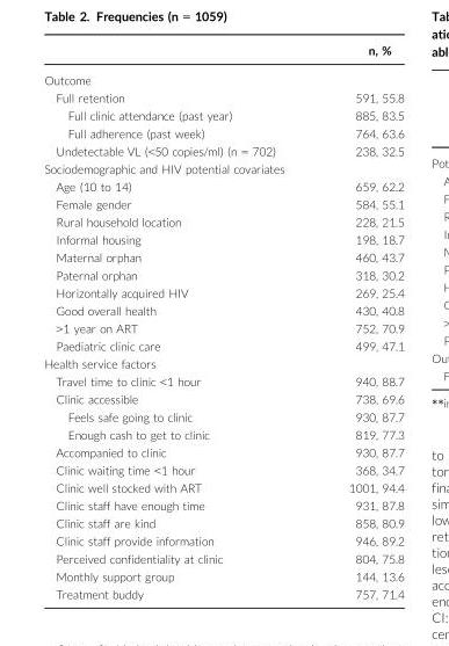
<table><thead><tr><td></td><td>n, %</td></tr></thead><tbody><tr><td colspan="2">Outcome</td></tr><tr><td>Full retention</td><td>591, 55.8</td></tr><tr><td>Full clinic attendance (past year)</td><td>885, 83.5</td></tr><tr><td>Full adherence (past week)</td><td>764, 63.6</td></tr><tr><td>Undetectable VL (&lt;50 copies/ml) (n = 702)</td><td>238, 32.5</td></tr><tr><td colspan="2">Sociodemographic and HIV potential covariates</td></tr><tr><td>Age (10 to 14)</td><td>659, 62.2</td></tr><tr><td>Female gender</td><td>584, 55.1</td></tr><tr><td>Rural household location</td><td>228, 21.5</td></tr><tr><td>Informal housing</td><td>198, 18.7</td></tr><tr><td>Maternal orphan</td><td>460, 43.7</td></tr><tr><td>Paternal orphan</td><td>318, 30.2</td></tr><tr><td>Horizontally acquired HIV</td><td>269, 25.4</td></tr><tr><td>Good overall health</td><td>430, 40.8</td></tr><tr><td>&gt;1 year on ART</td><td>752, 70.9</td></tr><tr><td>Paediatric clinic care</td><td>499, 47.1</td></tr><tr><td colspan="2">Health service factors</td></tr><tr><td>Travel time to clinic &lt;1 hour</td><td>940, 88.7</td></tr><tr><td>Clinic accessible</td><td>738, 69.6</td></tr><tr><td>Feels safe going to clinic</td><td>930, 87.7</td></tr><tr><td>Enough cash to get to clinic</td><td>819, 77.3</td></tr><tr><td>Accompanied to clinic</td><td>930, 87.7</td></tr><tr><td>Clinic waiting time &lt;1 hour</td><td>368, 34.7</td></tr><tr><td>Clinic well stocked with ART</td><td>1001, 94.4</td></tr><tr><td>Clinic staff have enough time</td><td>931, 87.8</td></tr><tr><td>Clinic staff are kind</td><td>858, 80.9</td></tr><tr><td>Clinic staff provide information</td><td>946, 89.2</td></tr><tr><td>Perceived confidentiality at clinic</td><td>804, 75.8</td></tr><tr><td>Monthly support group</td><td>144, 13.6</td></tr><tr><td>Treatment buddy</td><td>757, 71.4</td></tr></tbody></table>